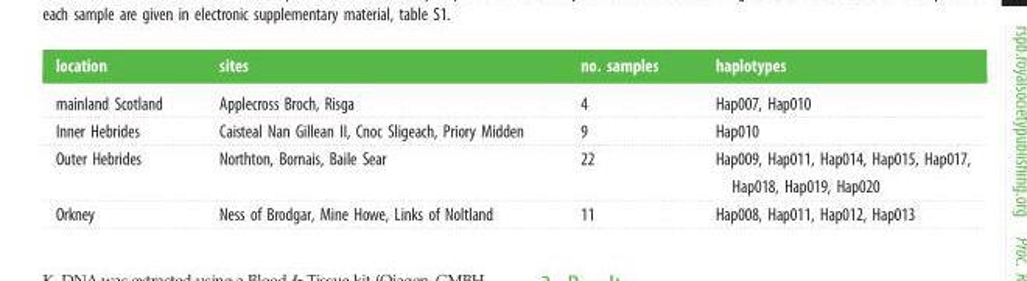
<table><thead><tr><td>location</td><td>sites</td><td>no. samples</td><td>haplotypes</td></tr></thead><tbody><tr><td>mainland Scotland</td><td>Applecross Broch, Risga</td><td>4</td><td>Hap007, Hap010</td></tr><tr><td>Inner Hebrides</td><td>Caisteal Nan Gillean II, Cnoc Sligeach, Priory Midden</td><td>9</td><td>Hap010</td></tr><tr><td>Outer Hebrides</td><td>Northton, Bornais, Baile Sear</td><td>22</td><td>Hap009, Hap011, Hap014, Hap015, Hap017, Hap018, Hap019, Hap020</td></tr><tr><td>Orkney</td><td>Ness of Brodgar, Mine Howe, Links of Noltland</td><td>11</td><td>Hap008, Hap011, Hap012, Hap013</td></tr></tbody></table>